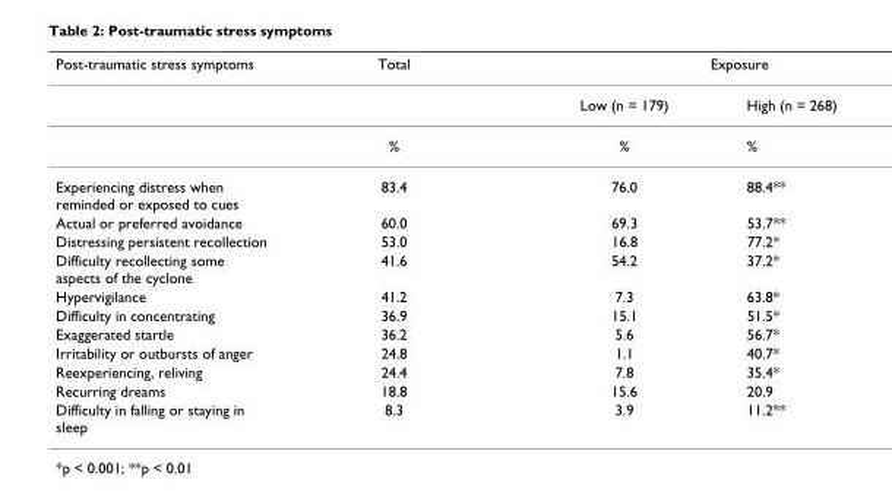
<table><thead><tr><td rowspan="2">Post-traumatic stress symptoms</td><td rowspan="2">Total</td><td colspan="2">Exposure</td></tr><tr><td>Low (n = 179)</td><td>High (n = 268)</td></tr></thead><tbody><tr><td></td><td>%</td><td>%</td><td>%</td></tr><tr><td>Experiencing distress when reminded or exposed to cues</td><td>83.4</td><td>76.0</td><td>88.4**</td></tr><tr><td>Actual or preferred avoidance</td><td>60.0</td><td>69.3</td><td>53.7**</td></tr><tr><td>Distressing persistent recollection</td><td>53.0</td><td>16.8</td><td>77.2*</td></tr><tr><td>Difficulty recollecting some aspects of the cyclone</td><td>41.6</td><td>54.2</td><td>37.2*</td></tr><tr><td>Hypervigilance</td><td>41.2</td><td>7.3</td><td>63.8*</td></tr><tr><td>Difficulty in concentrating</td><td>36.9</td><td>15.1</td><td>51.5*</td></tr><tr><td>Exaggerated startle</td><td>36.2</td><td>5.6</td><td>56.7*</td></tr><tr><td>Irritability or outbursts of anger</td><td>24.8</td><td>1.1</td><td>40.7*</td></tr><tr><td>Reexperiencing, reliving</td><td>24.4</td><td>7.8</td><td>35.4*</td></tr><tr><td>Recurring dreams</td><td>18.8</td><td>15.6</td><td>20.9</td></tr><tr><td>Difficulty in falling or staying in sleep</td><td>8.3</td><td>3.9</td><td>11.2**</td></tr></tbody></table>